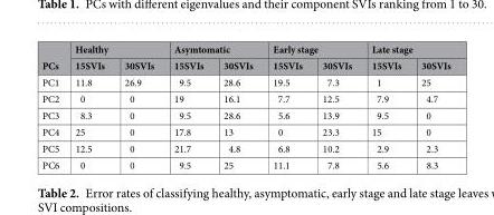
<table><thead><tr><td rowspan="2">PCs</td><td colspan="2">Healthy</td><td colspan="2">Asymtomatic</td><td colspan="2">Early stage</td><td colspan="2">Late stage</td></tr><tr><td>15SVIs</td><td>30SVIs</td><td>15SVIs</td><td>30SVIs</td><td>15SVIs</td><td>30SVIs</td><td>15SVIs</td><td>30SVIs</td></tr></thead><tbody><tr><td>PC1</td><td>11.8</td><td>26.9</td><td>9.5</td><td>28.6</td><td>19.5</td><td>7.3</td><td>1</td><td>25</td></tr><tr><td>PC2</td><td>0</td><td>0</td><td>19</td><td>16.1</td><td>7.7</td><td>12.5</td><td>7.9</td><td>4.7</td></tr><tr><td>PC3</td><td>8.3</td><td>0</td><td>9.5</td><td>28.6</td><td>5.6</td><td>13.9</td><td>9.5</td><td>0</td></tr><tr><td>PC4</td><td>25</td><td>0</td><td>17.8</td><td>13</td><td>0</td><td>23.3</td><td>15</td><td>0</td></tr><tr><td>PC5</td><td>12.5</td><td>0</td><td>21.7</td><td>4.8</td><td>6.8</td><td>10.2</td><td>2.9</td><td>2.3</td></tr><tr><td>PC6</td><td>0</td><td>0</td><td>9.5</td><td>25</td><td>11.1</td><td>7.8</td><td>5.6</td><td>8.3</td></tr></tbody></table>